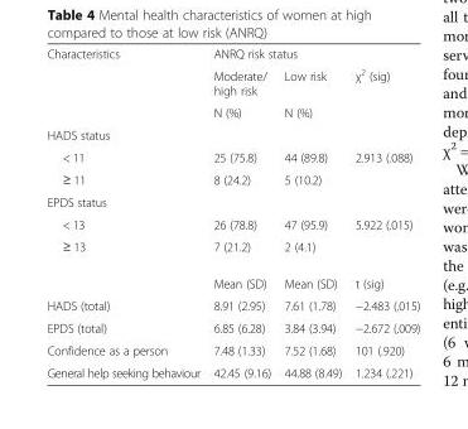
<table><tbody><tr><td rowspan="3">Characteristics</td><td colspan="3">ANRQ risk status</td></tr><tr><td>Moderate/ high risk</td><td>Low risk</td><td>χ<sup>2</sup> (sig)</td></tr><tr><td>N (%)</td><td>N (%)</td><td></td></tr><tr><td colspan="4">HADS status</td></tr><tr><td>&lt; 11</td><td>25 (75.8)</td><td>44 (89.8)</td><td>2.913 (.088)</td></tr><tr><td>≥ 11</td><td>8 (24.2)</td><td>5 (10.2)</td><td></td></tr><tr><td colspan="4">EPDS status</td></tr><tr><td>&lt; 13</td><td>26 (78.8)</td><td>47 (95.9)</td><td>5.922 (.015)</td></tr><tr><td rowspan="2">≥ 13</td><td>7 (21.2)</td><td>2 (4.1)</td><td></td></tr><tr><td>Mean (SD)</td><td>Mean (SD)</td><td>t (sig)</td></tr><tr><td>HADS (total)</td><td>8.91 (2.95)</td><td>7.61 (1.78)</td><td>−2.483 (.015)</td></tr><tr><td>EPDS (total)</td><td>6.85 (6.28)</td><td>3.84 (3.94)</td><td>−2.672 (.009)</td></tr><tr><td>Confidence as a person</td><td>7.48 (1.33)</td><td>7.52 (1.68)</td><td>101 (.920)</td></tr><tr><td>General help seeking behaviour</td><td>42.45 (9.16)</td><td>44.88 (8.49)</td><td>1.234 (.221)</td></tr></tbody></table>